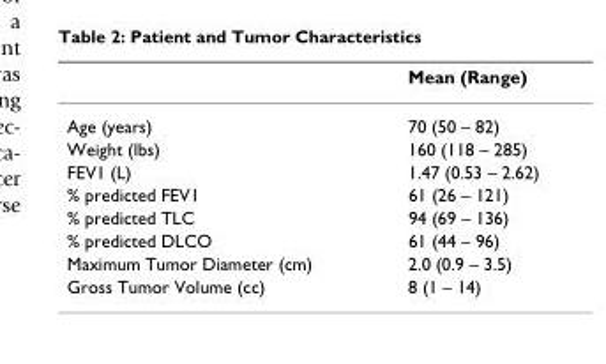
<table><thead><tr><td></td><td>Mean (Range)</td></tr></thead><tbody><tr><td>Age (years)</td><td>70 (50 – 82)</td></tr><tr><td>Weight (lbs)</td><td>160 (118 – 285)</td></tr><tr><td>FEV1 (L)</td><td>1.47 (0.53 – 2.62)</td></tr><tr><td>% predicted FEV1</td><td>61 (26 – 121)</td></tr><tr><td>% predicted TLC</td><td>94 (69 – 136)</td></tr><tr><td>% predicted DLCO</td><td>61 (44 – 96)</td></tr><tr><td>Maximum Tumor Diameter (cm)</td><td>2.0 (0.9 – 3.5)</td></tr><tr><td>Gross Tumor Volume (cc)</td><td>8 (1 – 14)</td></tr></tbody></table>